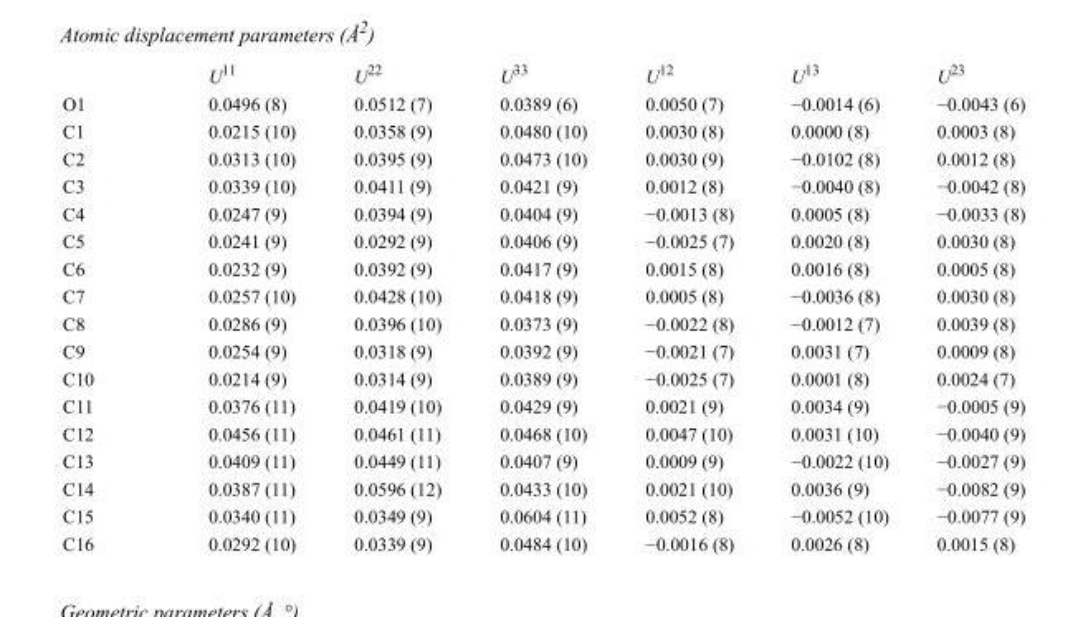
<table><thead><tr><td></td><td>U<sup>11</sup></td><td>U<sup>22</sup></td><td>U<sup>33</sup></td><td>U<sup>12</sup></td><td>U<sup>13</sup></td><td>U<sup>23</sup></td></tr></thead><tbody><tr><td>O1</td><td>0.0496 (8)</td><td>0.0512 (7)</td><td>0.0389 (6)</td><td>0.0050 (7)</td><td>−0.0014 (6)</td><td>−0.0043 (6)</td></tr><tr><td>C1</td><td>0.0215 (10)</td><td>0.0358 (9)</td><td>0.0480 (10)</td><td>0.0030 (8)</td><td>0.0000 (8)</td><td>0.0003 (8)</td></tr><tr><td>C2</td><td>0.0313 (10)</td><td>0.0395 (9)</td><td>0.0473 (10)</td><td>0.0030 (9)</td><td>−0.0102 (8)</td><td>0.0012 (8)</td></tr><tr><td>C3</td><td>0.0339 (10)</td><td>0.0411 (9)</td><td>0.0421 (9)</td><td>0.0012 (8)</td><td>−0.0040 (8)</td><td>−0.0042 (8)</td></tr><tr><td>C4</td><td>0.0247 (9)</td><td>0.0394 (9)</td><td>0.0404 (9)</td><td>−0.0013 (8)</td><td>0.0005 (8)</td><td>−0.0033 (8)</td></tr><tr><td>C5</td><td>0.0241 (9)</td><td>0.0292 (9)</td><td>0.0406 (9)</td><td>−0.0025 (7)</td><td>0.0020 (8)</td><td>0.0030 (8)</td></tr><tr><td>C6</td><td>0.0232 (9)</td><td>0.0392 (9)</td><td>0.0417 (9)</td><td>0.0015 (8)</td><td>0.0016 (8)</td><td>0.0005 (8)</td></tr><tr><td>C7</td><td>0.0257 (10)</td><td>0.0428 (10)</td><td>0.0418 (9)</td><td>0.0005 (8)</td><td>−0.0036 (8)</td><td>0.0030 (8)</td></tr><tr><td>C8</td><td>0.0286 (9)</td><td>0.0396 (10)</td><td>0.0373 (9)</td><td>−0.0022 (8)</td><td>−0.0012 (7)</td><td>0.0039 (8)</td></tr><tr><td>C9</td><td>0.0254 (9)</td><td>0.0318 (9)</td><td>0.0392 (9)</td><td>−0.0021 (7)</td><td>0.0031 (7)</td><td>0.0009 (8)</td></tr><tr><td>C10</td><td>0.0214 (9)</td><td>0.0314 (9)</td><td>0.0389 (9)</td><td>−0.0025 (7)</td><td>0.0001 (8)</td><td>0.0024 (7)</td></tr><tr><td>C11</td><td>0.0376 (11)</td><td>0.0419 (10)</td><td>0.0429 (9)</td><td>0.0021 (9)</td><td>0.0034 (9)</td><td>−0.0005 (9)</td></tr><tr><td>C12</td><td>0.0456 (11)</td><td>0.0461 (11)</td><td>0.0468 (10)</td><td>0.0047 (10)</td><td>0.0031 (10)</td><td>−0.0040 (9)</td></tr><tr><td>C13</td><td>0.0409 (11)</td><td>0.0449 (11)</td><td>0.0407 (9)</td><td>0.0009 (9)</td><td>−0.0022 (10)</td><td>−0.0027 (9)</td></tr><tr><td>C14</td><td>0.0387 (11)</td><td>0.0596 (12)</td><td>0.0433 (10)</td><td>0.0021 (10)</td><td>0.0036 (9)</td><td>−0.0082 (9)</td></tr><tr><td>C15</td><td>0.0340 (11)</td><td>0.0349 (9)</td><td>0.0604 (11)</td><td>0.0052 (8)</td><td>−0.0052 (10)</td><td>−0.0077 (9)</td></tr><tr><td>C16</td><td>0.0292 (10)</td><td>0.0339 (9)</td><td>0.0484 (10)</td><td>−0.0016 (8)</td><td>0.0026 (8)</td><td>0.0015 (8)</td></tr></tbody></table>